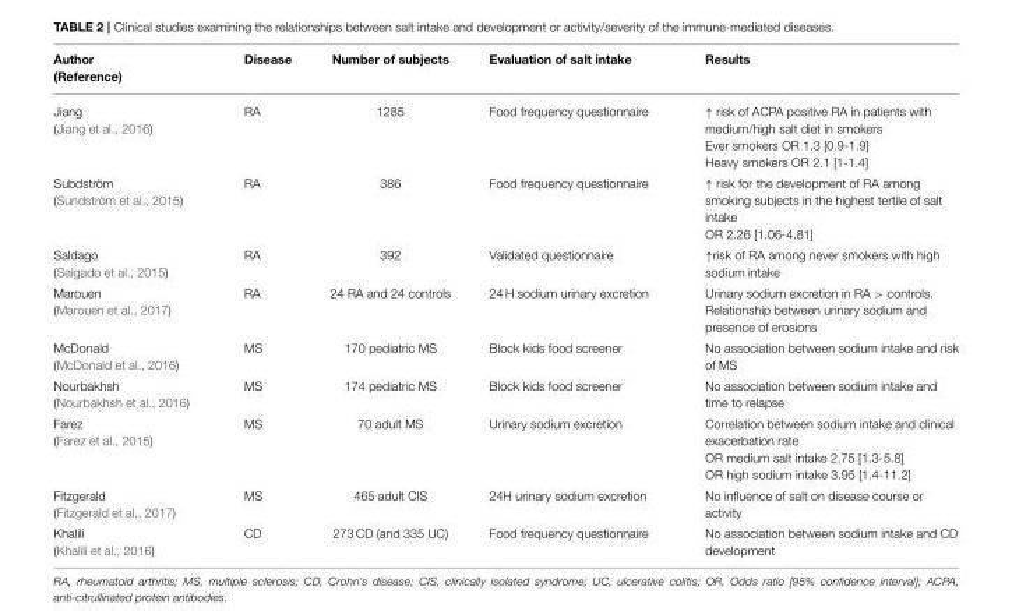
<table><thead><tr><td>Author (Reference)</td><td>Disease</td><td>Number of subjects</td><td>Evaluation of salt intake</td><td>Results</td></tr></thead><tbody><tr><td>Jiang (Jiang et al., 2016)</td><td>RA</td><td>1285</td><td>Food frequency questionnaire</td><td>↑ risk of ACPA positive RA in patients with medium/high salt diet in smokers Ever smokers OR 1.3 [0.9-1.9] Heavy smokers OR 2.1 [1-1.4]</td></tr><tr><td>Subdström (Sundström et al., 2015)</td><td>RA</td><td>386</td><td>Food frequency questionnaire</td><td>↑ risk for the development of RA among smoking subjects in the highest tertile of salt intake OR 2.26 [1.06-4.81]</td></tr><tr><td>Saldago (Salgado et al., 2015)</td><td>RA</td><td>392</td><td>Validated questionnaire</td><td>↑risk of RA among never smokers with high sodium intake</td></tr><tr><td>Marouen (Marouen et al., 2017)</td><td>RA</td><td>24 RA and 24 controls</td><td>24 H sodium urinary excretion</td><td>Urinary sodium excretion in RA &gt; controls. Relationship between urinary sodium and presence of erosions</td></tr><tr><td>McDonald (McDonald et al., 2016)</td><td>MS</td><td>170 pediatric MS</td><td>Block kids food screener</td><td>No association between sodium intake and risk of MS</td></tr><tr><td>Nourbakhsh (Nourbakhsh et al., 2016)</td><td>MS</td><td>174 pediatric MS</td><td>Block kids food screener</td><td>No association between sodium intake and time to relapse</td></tr><tr><td>Farez (Farez et al., 2015)</td><td>MS</td><td>70 adult MS</td><td>Urinary sodium excretion</td><td>Correlation between sodium intake and clinical exacerbation rate OR medium salt intake 2.75 [1.3-5.8] OR high sodium intake 3.95 [1.4-11.2]</td></tr><tr><td>Fitzgerald (Fitzgerald et al., 2017)</td><td>MS</td><td>465 adult CIS</td><td>24H urinary sodium excretion</td><td>No influence of salt on disease course or activity</td></tr><tr><td>Khalili (Khalili et al., 2016)</td><td>CD</td><td>273 CD (and 335 UC)</td><td>Food frequency questionnaire</td><td>No association between sodium intake and CD development</td></tr></tbody></table>